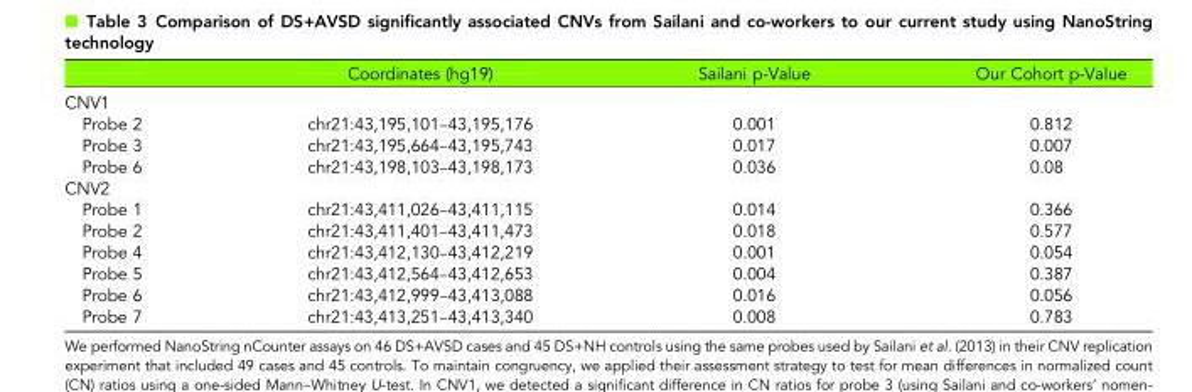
<table><thead><tr><td></td><td>Coordinates (hg19)</td><td>Sailani p-Value</td><td>Our Cohort p-Value</td></tr></thead><tbody><tr><td colspan="4">CNV1</td></tr><tr><td>Probe 2</td><td>chr21:43,195,101–43,195,176</td><td>0.001</td><td>0.812</td></tr><tr><td>Probe 3</td><td>chr21:43,195,664–43,195,743</td><td>0.017</td><td>0.007</td></tr><tr><td>Probe 6</td><td>chr21:43,198,103–43,198,173</td><td>0.036</td><td>0.08</td></tr><tr><td colspan="4">CNV2</td></tr><tr><td>Probe 1</td><td>chr21:43,411,026–43,411,115</td><td>0.014</td><td>0.366</td></tr><tr><td>Probe 2</td><td>chr21:43,411,401–43,411,473</td><td>0.018</td><td>0.577</td></tr><tr><td>Probe 4</td><td>chr21:43,412,130–43,412,219</td><td>0.001</td><td>0.054</td></tr><tr><td>Probe 5</td><td>chr21:43,412,564–43,412,653</td><td>0.004</td><td>0.387</td></tr><tr><td>Probe 6</td><td>chr21:43,412,999–43,413,088</td><td>0.016</td><td>0.056</td></tr><tr><td>Probe 7</td><td>chr21:43,413,251–43,413,340</td><td>0.008</td><td>0.783</td></tr></tbody></table>